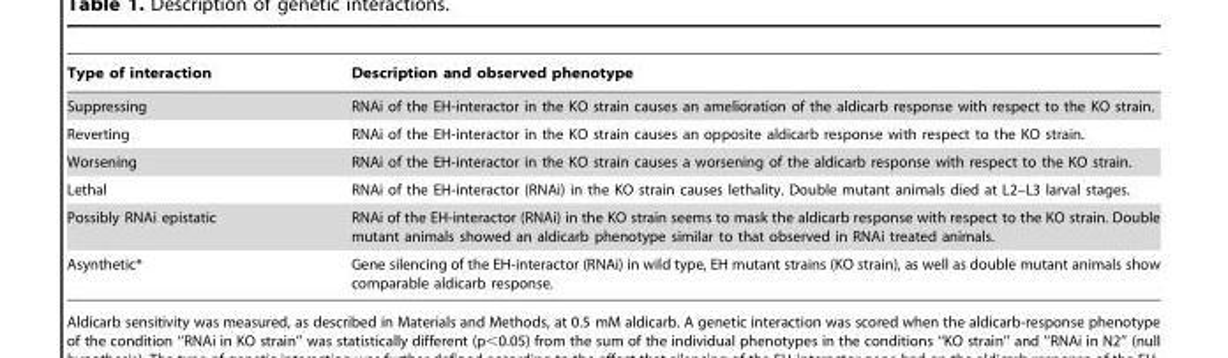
<table><thead><tr><td>Type of interaction</td><td>Description and observed phenotype</td></tr></thead><tbody><tr><td>Suppressing</td><td>RNAi of the EH-interactor in the KO strain causes an amelioration of the aldicarb response with respect to the KO strain.</td></tr><tr><td>Reverting</td><td>RNAi of the EH-interactor in the KO strain causes an opposite aldicarb response with respect to the KO strain.</td></tr><tr><td>Worsening</td><td>RNAi of the EH-interactor in the KO strain causes a worsening of the aldicarb response with respect to the KO strain.</td></tr><tr><td>Lethal</td><td>RNAi of the EH-interactor (RNAi) in the KO strain causes lethality. Double mutant animals died at L2–L3 larval stages.</td></tr><tr><td>Possibly RNAi epistatic</td><td>RNAi of the EH-interactor (RNAi) in the KO strain seems to mask the aldicarb response with respect to the KO strain. Double mutant animals showed an aldicarb phenotype similar to that observed in RNAi treated animals.</td></tr><tr><td>Asynthetic*</td><td>Gene silencing of the EH-interactor (RNAi) in wild type, EH mutant strains (KO strain), as well as double mutant animals show comparable aldicarb response.</td></tr></tbody></table>